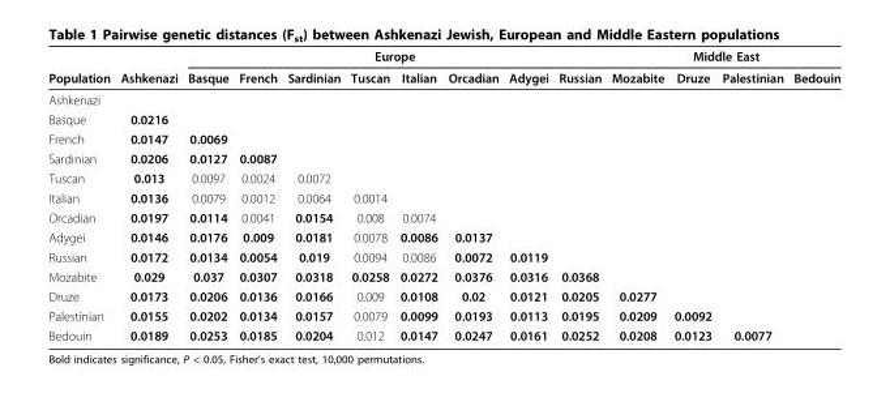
<table><thead><tr><td rowspan="2">Population</td><td rowspan="2">Ashkenazi</td><td colspan="8">Europe</td><td colspan="4">Middle East</td></tr><tr><td>Basque</td><td>French</td><td>Sardinian</td><td>Tuscan</td><td>Italian</td><td>Orcadian</td><td>Adygei</td><td>Russian</td><td>Mozabite</td><td>Druze</td><td>Palestinian</td><td>Bedouin</td></tr></thead><tbody><tr><td colspan="14">Ashkenazi</td></tr><tr><td>Basque</td><td>0.0216</td><td></td><td></td><td></td><td></td><td></td><td></td><td></td><td></td><td></td><td></td><td></td><td></td></tr><tr><td>French</td><td>0.0147</td><td>0.0069</td><td></td><td></td><td></td><td></td><td></td><td></td><td></td><td></td><td></td><td></td><td></td></tr><tr><td>Sardinian</td><td>0.0206</td><td>0.0127</td><td>0.0087</td><td></td><td></td><td></td><td></td><td></td><td></td><td></td><td></td><td></td><td></td></tr><tr><td>Tuscan</td><td>0.013</td><td>0.0097</td><td>0.0024</td><td>0.0072</td><td></td><td></td><td></td><td></td><td></td><td></td><td></td><td></td><td></td></tr><tr><td>Italian</td><td>0.0136</td><td>0.0079</td><td>0.0012</td><td>0.0064</td><td>0.0014</td><td></td><td></td><td></td><td></td><td></td><td></td><td></td><td></td></tr><tr><td>Orcadian</td><td>0.0197</td><td>0.0114</td><td>0.0041</td><td>0.0154</td><td>0.008</td><td>0.0074</td><td></td><td></td><td></td><td></td><td></td><td></td><td></td></tr><tr><td>Adygei</td><td>0.0146</td><td>0.0176</td><td>0.009</td><td>0.0181</td><td>0.0078</td><td>0.0086</td><td>0.0137</td><td></td><td></td><td></td><td></td><td></td><td></td></tr><tr><td>Russian</td><td>0.0172</td><td>0.0134</td><td>0.0054</td><td>0.019</td><td>0.0094</td><td>0.0086</td><td>0.0072</td><td>0.0119</td><td></td><td></td><td></td><td></td><td></td></tr><tr><td>Mozabite</td><td>0.029</td><td>0.037</td><td>0.0307</td><td>0.0318</td><td>0.0258</td><td>0.0272</td><td>0.0376</td><td>0.0316</td><td>0.0368</td><td></td><td></td><td></td><td></td></tr><tr><td>Druze</td><td>0.0173</td><td>0.0206</td><td>0.0136</td><td>0.0166</td><td>0.009</td><td>0.0108</td><td>0.02</td><td>0.0121</td><td>0.0205</td><td>0.0277</td><td></td><td></td><td></td></tr><tr><td>Palestinian</td><td>0.0155</td><td>0.0202</td><td>0.0134</td><td>0.0157</td><td>0.0079</td><td>0.0099</td><td>0.0193</td><td>0.0113</td><td>0.0195</td><td>0.0209</td><td>0.0092</td><td></td><td></td></tr><tr><td>Bedouin</td><td>0.0189</td><td>0.0253</td><td>0.0185</td><td>0.0204</td><td>0.012</td><td>0.0147</td><td>0.0247</td><td>0.0161</td><td>0.0252</td><td>0.0208</td><td>0.0123</td><td>0.0077</td><td></td></tr></tbody></table>